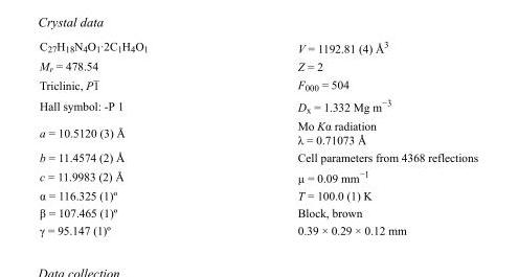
<table><tbody><tr><td>C<sub>27</sub>H<sub>18</sub>N<sub>4</sub>O<sub>1</sub>·2C<sub>1</sub>H<sub>4</sub>O<sub>1</sub></td><td>V = 1192.81 (4) Å<sup>3</sup></td></tr><tr><td>M<sub>r</sub> = 478.54</td><td>Z = 2</td></tr><tr><td>Triclinic, P1</td><td>F<sub>000</sub> = 504</td></tr><tr><td>Hall symbol: -P 1</td><td>D<sub>x</sub> = 1.332 Mg m<sup>−3</sup></td></tr><tr><td>a = 10.5120 (3) Å</td><td>Mo Kα radiation λ = 0.71073 Å</td></tr><tr><td>b = 11.4574 (2) Å</td><td>Cell parameters from 4368 reflections</td></tr><tr><td>c = 11.9983 (2) Å</td><td>µ = 0.09 mm<sup>−1</sup></td></tr><tr><td>α = 116.325 (1)º</td><td>T = 100.0 (1) K</td></tr><tr><td>β = 107.465 (1)º</td><td>Block, brown</td></tr><tr><td>γ = 95.147 (1)º</td><td>0.39 × 0.29 × 0.12 mm</td></tr></tbody></table>